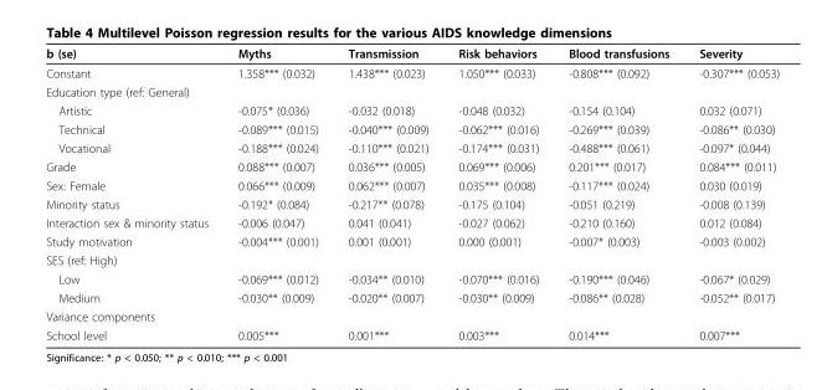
<table><thead><tr><td>b (se)</td><td>Myths</td><td>Transmission</td><td>Risk behaviors</td><td>Blood transfusions</td><td>Severity</td></tr></thead><tbody><tr><td>Constant</td><td>1.358*** (0.032)</td><td>1.438*** (0.023)</td><td>1.050*** (0.033)</td><td>-0.808*** (0.092)</td><td>-0.307*** (0.053)</td></tr><tr><td colspan="6">Education type (ref: General)</td></tr><tr><td>Artistic</td><td>-0.075* (0.036)</td><td>-0.032 (0.018)</td><td>-0.048 (0.032)</td><td>-0.154 (0.104)</td><td>0.032 (0.071)</td></tr><tr><td>Technical</td><td>-0.089*** (0.015)</td><td>-0.040*** (0.009)</td><td>-0.062*** (0.016)</td><td>-0.269*** (0.039)</td><td>-0.086** (0.030)</td></tr><tr><td>Vocational</td><td>-0.188*** (0.024)</td><td>-0.110*** (0.021)</td><td>-0.174*** (0.031)</td><td>-0.488*** (0.061)</td><td>-0.097* (0.044)</td></tr><tr><td>Grade</td><td>0.088*** (0.007)</td><td>0.036*** (0.005)</td><td>0.069*** (0.006)</td><td>0.201*** (0.017)</td><td>0.084*** (0.011)</td></tr><tr><td>Sex: Female</td><td>0.066*** (0.009)</td><td>0.062*** (0.007)</td><td>0.035*** (0.008)</td><td>-0.117*** (0.024)</td><td>0.030 (0.019)</td></tr><tr><td>Minority status</td><td>-0.192* (0.084)</td><td>-0.217** (0.078)</td><td>-0.175 (0.104)</td><td>-0.051 (0.219)</td><td>-0.008 (0.139)</td></tr><tr><td>Interaction sex &amp; minority status</td><td>-0.006 (0.047)</td><td>0.041 (0.041)</td><td>-0.027 (0.062)</td><td>-0.210 (0.160)</td><td>0.012 (0.084)</td></tr><tr><td>Study motivation</td><td>-0.004*** (0.001)</td><td>0.001 (0.001)</td><td>0.000 (0.001)</td><td>-0.007* (0.003)</td><td>-0.003 (0.002)</td></tr><tr><td colspan="6">SES (ref: High)</td></tr><tr><td>Low</td><td>-0.069*** (0.012)</td><td>-0.034** (0.010)</td><td>-0.070*** (0.016)</td><td>-0.190*** (0.046)</td><td>-0.067* (0.029)</td></tr><tr><td>Medium</td><td>-0.030** (0.009)</td><td>-0.020** (0.007)</td><td>-0.030** (0.009)</td><td>-0.086** (0.028)</td><td>-0.052** (0.017)</td></tr><tr><td colspan="6">Variance components</td></tr><tr><td>School level</td><td>0.005***</td><td>0.001***</td><td>0.003***</td><td>0.014***</td><td>0.007***</td></tr></tbody></table>